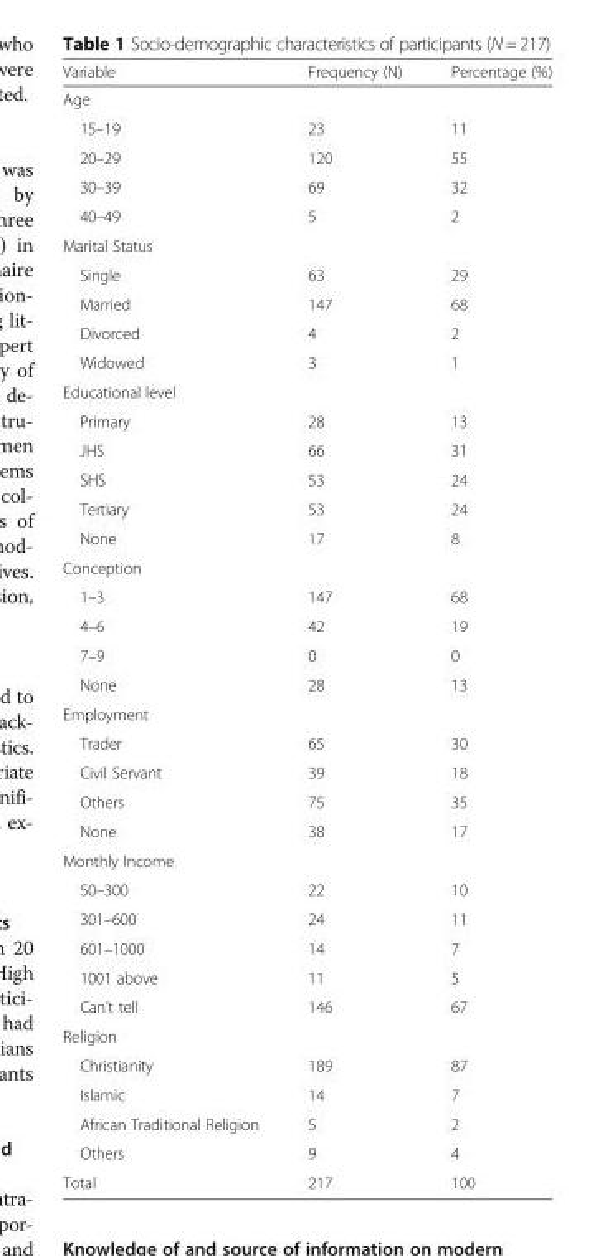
<table><thead><tr><td>Variable</td><td>Frequency (N)</td><td>Percentage (%)</td></tr></thead><tbody><tr><td colspan="3">Age</td></tr><tr><td>15–19</td><td>23</td><td>11</td></tr><tr><td>20–29</td><td>120</td><td>55</td></tr><tr><td>30–39</td><td>69</td><td>32</td></tr><tr><td>40–49</td><td>5</td><td>2</td></tr><tr><td colspan="3">Marital Status</td></tr><tr><td>Single</td><td>63</td><td>29</td></tr><tr><td>Married</td><td>147</td><td>68</td></tr><tr><td>Divorced</td><td>4</td><td>2</td></tr><tr><td>Widowed</td><td>3</td><td>1</td></tr><tr><td colspan="3">Educational level</td></tr><tr><td>Primary</td><td>28</td><td>13</td></tr><tr><td>JHS</td><td>66</td><td>31</td></tr><tr><td>SHS</td><td>53</td><td>24</td></tr><tr><td>Tertiary</td><td>53</td><td>24</td></tr><tr><td>None</td><td>17</td><td>8</td></tr><tr><td colspan="3">Conception</td></tr><tr><td>1–3</td><td>147</td><td>68</td></tr><tr><td>4–6</td><td>42</td><td>19</td></tr><tr><td>7–9</td><td>0</td><td>0</td></tr><tr><td>None</td><td>28</td><td>13</td></tr><tr><td colspan="3">Employment</td></tr><tr><td>Trader</td><td>65</td><td>30</td></tr><tr><td>Civil Servant</td><td>39</td><td>18</td></tr><tr><td>Others</td><td>75</td><td>35</td></tr><tr><td>None</td><td>38</td><td>17</td></tr><tr><td colspan="3">Monthly Income</td></tr><tr><td>50–300</td><td>22</td><td>10</td></tr><tr><td>301–600</td><td>24</td><td>11</td></tr><tr><td>601–1000</td><td>14</td><td>7</td></tr><tr><td>1001 above</td><td>11</td><td>5</td></tr><tr><td>Can’t tell</td><td>146</td><td>67</td></tr><tr><td colspan="3">Religion</td></tr><tr><td>Christianity</td><td>189</td><td>87</td></tr><tr><td>Islamic</td><td>14</td><td>7</td></tr><tr><td>African Traditional Religion</td><td>5</td><td>2</td></tr><tr><td>Others</td><td>9</td><td>4</td></tr><tr><td>Total</td><td>217</td><td>100</td></tr></tbody></table>